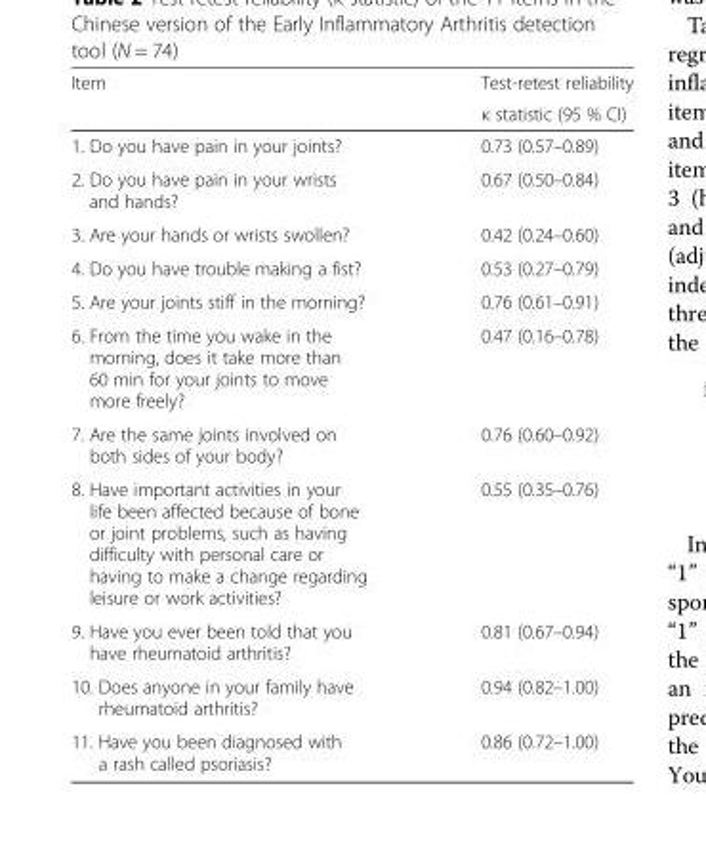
<table><thead><tr><td rowspan="2">Item</td><td rowspan="2">Test-retest reliability κ statistic (95 % CI)</td></tr><tr></tr></thead><tbody><tr><td>1. Do you have pain in your joints?</td><td>0.73 (0.57–0.89)</td></tr><tr><td>2. Do you have pain in your wrists and hands?</td><td>0.67 (0.50–0.84)</td></tr><tr><td>3. Are your hands or wrists swollen?</td><td>0.42 (0.24–0.60)</td></tr><tr><td>4. Do you have trouble making a fist?</td><td>0.53 (0.27–0.79)</td></tr><tr><td>5. Are your joints stiff in the morning?</td><td>0.76 (0.61–0.91)</td></tr><tr><td>6. From the time you wake in the morning, does it take more than 60 min for your joints to move more freely?</td><td>0.47 (0.16–0.78)</td></tr><tr><td>7. Are the same joints involved on both sides of your body?</td><td>0.76 (0.60–0.92)</td></tr><tr><td>8. Have important activities in your life been affected because of bone or joint problems, such as having difficulty with personal care or having to make a change regarding leisure or work activities?</td><td>0.55 (0.35–0.76)</td></tr><tr><td>9. Have you ever been told that you have rheumatoid arthritis?</td><td>0.81 (0.67–0.94)</td></tr><tr><td>10. Does anyone in your family have rheumatoid arthritis?</td><td>0.94 (0.82–1.00)</td></tr><tr><td>11. Have you been diagnosed with a rash called psoriasis?</td><td>0.86 (0.72–1.00)</td></tr></tbody></table>